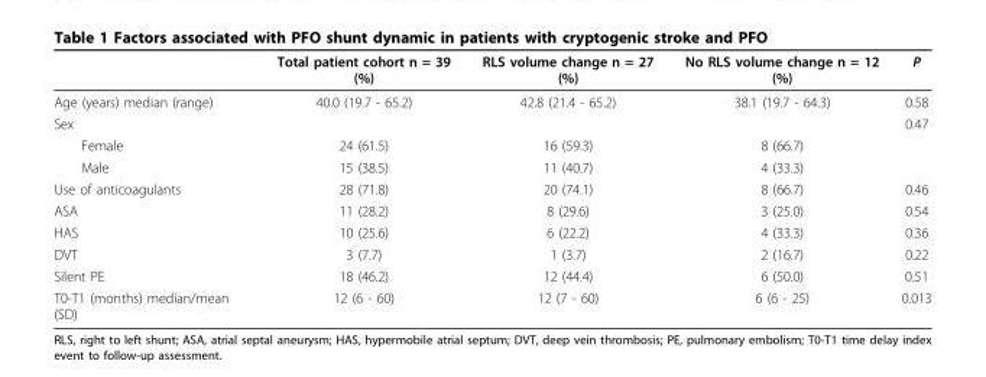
<table><thead><tr><td></td><td>Total patient cohort n = 39 (%)</td><td>RLS volume change n = 27 (%)</td><td>No RLS volume change n = 12 (%)</td><td>P</td></tr></thead><tbody><tr><td>Age (years) median (range)</td><td>40.0 (19.7 - 65.2)</td><td>42.8 (21.4 - 65.2)</td><td>38.1 (19.7 - 64.3)</td><td>0.58</td></tr><tr><td>Sex</td><td></td><td></td><td></td><td>0.47</td></tr><tr><td>Female</td><td>24 (61.5)</td><td>16 (59.3)</td><td>8 (66.7)</td><td></td></tr><tr><td>Male</td><td>15 (38.5)</td><td>11 (40.7)</td><td>4 (33.3)</td><td></td></tr><tr><td>Use of anticoagulants</td><td>28 (71.8)</td><td>20 (74.1)</td><td>8 (66.7)</td><td>0.46</td></tr><tr><td>ASA</td><td>11 (28.2)</td><td>8 (29.6)</td><td>3 (25.0)</td><td>0.54</td></tr><tr><td>HAS</td><td>10 (25.6)</td><td>6 (22.2)</td><td>4 (33.3)</td><td>0.36</td></tr><tr><td>DVT</td><td>3 (7.7)</td><td>1 (3.7)</td><td>2 (16.7)</td><td>0.22</td></tr><tr><td>Silent PE</td><td>18 (46.2)</td><td>12 (44.4)</td><td>6 (50.0)</td><td>0.51</td></tr><tr><td>T0-T1 (months) median/mean (SD)</td><td>12 (6 - 60)</td><td>12 (7 - 60)</td><td>6 (6 - 25)</td><td>0.013</td></tr></tbody></table>